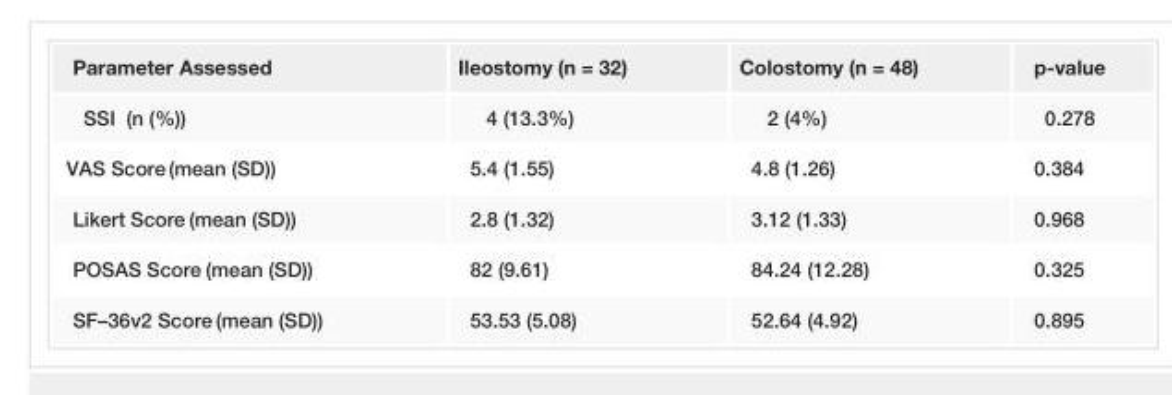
<table><tbody><tr><td>Parameter Assessed</td><td>Ileostomy (n = 32)</td><td>Colostomy (n = 48)</td><td>p-value</td></tr><tr><td>SSI (n (%))</td><td>4 (13.3%)</td><td>2 (4%)</td><td>0.278</td></tr><tr><td>VAS Score (mean (SD))</td><td>5.4 (1.55)</td><td>4.8 (1.26)</td><td>0.384</td></tr><tr><td>Likert Score (mean (SD))</td><td>2.8 (1.32)</td><td>3.12 (1.33)</td><td>0.968</td></tr><tr><td>POSAS Score (mean (SD))</td><td>82 (9.61)</td><td>84.24 (12.28)</td><td>0.325</td></tr><tr><td>SF–36v2 Score (mean (SD))</td><td>53.53 (5.08)</td><td>52.64 (4.92)</td><td>0.895</td></tr></tbody></table>